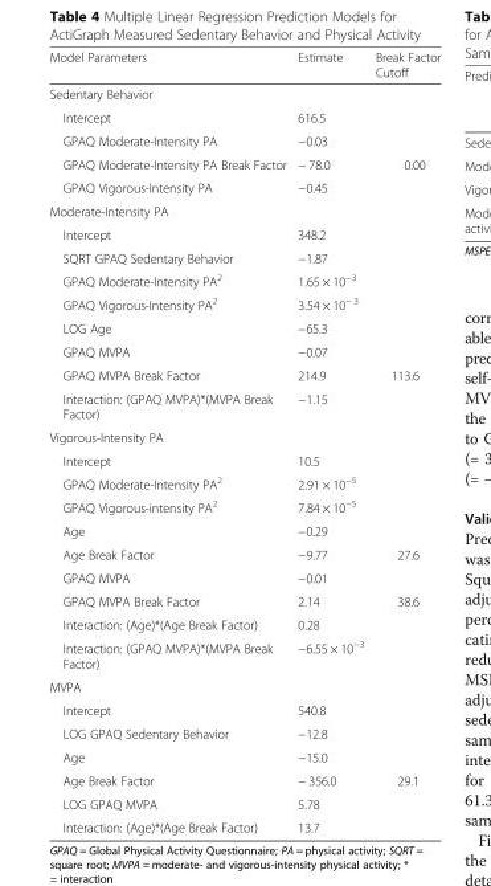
<table><thead><tr><td>Model Parameters</td><td>Estimate</td><td>Break Factor Cutoff</td></tr></thead><tbody><tr><td colspan="3">Sedentary Behavior</td></tr><tr><td>Intercept</td><td>616.5</td><td></td></tr><tr><td>GPAQ Moderate-Intensity PA</td><td>−0.03</td><td></td></tr><tr><td>GPAQ Moderate-Intensity PA Break Factor</td><td>− 78.0</td><td>0.00</td></tr><tr><td>GPAQ Vigorous-Intensity PA</td><td>−0.45</td><td></td></tr><tr><td colspan="3">Moderate-Intensity PA</td></tr><tr><td>Intercept</td><td>348.2</td><td></td></tr><tr><td>SQRT GPAQ Sedentary Behavior</td><td>−1.87</td><td></td></tr><tr><td>GPAQ Moderate-Intensity PA<sup>2</sup></td><td>1.65 × 10<sup>−3</sup></td><td></td></tr><tr><td>GPAQ Vigorous-Intensity PA<sup>2</sup></td><td>3.54 × 10<sup>− 3</sup></td><td></td></tr><tr><td>LOG Age</td><td>−65.3</td><td></td></tr><tr><td>GPAQ MVPA</td><td>−0.07</td><td></td></tr><tr><td>GPAQ MVPA Break Factor</td><td>214.9</td><td>113.6</td></tr><tr><td>Interaction: (GPAQ MVPA)*(MVPA Break Factor)</td><td>−1.15</td><td></td></tr><tr><td colspan="3">Vigorous-Intensity PA</td></tr><tr><td>Intercept</td><td>10.5</td><td></td></tr><tr><td>GPAQ Moderate-Intensity PA<sup>2</sup></td><td>2.91 × 10<sup>−5</sup></td><td></td></tr><tr><td>GPAQ Vigorous-intensity PA<sup>2</sup></td><td>7.84 × 10<sup>−5</sup></td><td></td></tr><tr><td>Age</td><td>−0.29</td><td></td></tr><tr><td>Age Break Factor</td><td>−9.77</td><td>27.6</td></tr><tr><td>GPAQ MVPA</td><td>−0.01</td><td></td></tr><tr><td>GPAQ MVPA Break Factor</td><td>2.14</td><td>38.6</td></tr><tr><td>Interaction: (Age)*(Age Break Factor)</td><td>0.28</td><td></td></tr><tr><td>Interaction: (GPAQ MVPA)*(MVPA Break Factor)</td><td>−6.55 × 10<sup>−3</sup></td><td></td></tr><tr><td colspan="3">MVPA</td></tr><tr><td>Intercept</td><td>540.8</td><td></td></tr><tr><td>LOG GPAQ Sedentary Behavior</td><td>−12.8</td><td></td></tr><tr><td>Age</td><td>−15.0</td><td></td></tr><tr><td>Age Break Factor</td><td>− 356.0</td><td>29.1</td></tr><tr><td>LOG GPAQ MVPA</td><td>5.78</td><td></td></tr><tr><td>Interaction: (Age)*(Age Break Factor)</td><td>13.7</td><td></td></tr></tbody></table>